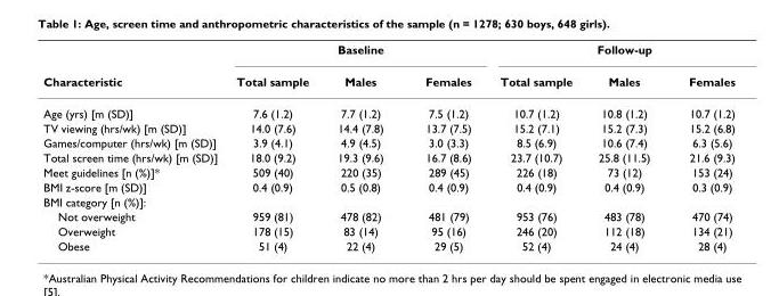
<table><thead><tr><td rowspan="2">Characteristic</td><td colspan="3">Baseline</td><td colspan="3">Follow-up</td></tr><tr><td>Total sample</td><td>Males</td><td>Females</td><td>Total sample</td><td>Males</td><td>Females</td></tr></thead><tbody><tr><td>Age (yrs) [m (SD)]</td><td>7.6 (1.2)</td><td>7.7 (1.2)</td><td>7.5 (1.2)</td><td>10.7 (1.2)</td><td>10.8 (1.2)</td><td>10.7 (1.2)</td></tr><tr><td>TV viewing (hrs/wk) [m (SD)]</td><td>14.0 (7.6)</td><td>14.4 (7.8)</td><td>13.7 (7.5)</td><td>15.2 (7.1)</td><td>15.2 (7.3)</td><td>15.2 (6.8)</td></tr><tr><td>Games/computer (hrs/wk) [m (SD)]</td><td>3.9 (4.1)</td><td>4.9 (4.5)</td><td>3.0 (3.3)</td><td>8.5 (6.9)</td><td>10.6 (7.4)</td><td>6.3 (5.6)</td></tr><tr><td>Total screen time (hrs/wk) [m (SD)]</td><td>18.0 (9.2)</td><td>19.3 (9.6)</td><td>16.7 (8.6)</td><td>23.7 (10.7)</td><td>25.8 (11.5)</td><td>21.6 (9.3)</td></tr><tr><td>Meet guidelines [n (%)]*</td><td>509 (40)</td><td>220 (35)</td><td>289 (45)</td><td>226 (18)</td><td>73 (12)</td><td>153 (24)</td></tr><tr><td>BMI z-score [m (SD)]</td><td>0.4 (0.9)</td><td>0.5 (0.8)</td><td>0.4 (0.9)</td><td>0.4 (0.9)</td><td>0.4 (0.9)</td><td>0.3 (0.9)</td></tr><tr><td colspan="7">BMI category [n (%)]:</td></tr><tr><td>Not overweight</td><td>959 (81)</td><td>478 (82)</td><td>481 (79)</td><td>953 (76)</td><td>483 (78)</td><td>470 (74)</td></tr><tr><td>Overweight</td><td>178 (15)</td><td>83 (14)</td><td>95 (16)</td><td>246 (20)</td><td>112 (18)</td><td>134 (21)</td></tr><tr><td>Obese</td><td>51 (4)</td><td>22 (4)</td><td>29 (5)</td><td>52 (4)</td><td>24 (4)</td><td>28 (4)</td></tr></tbody></table>